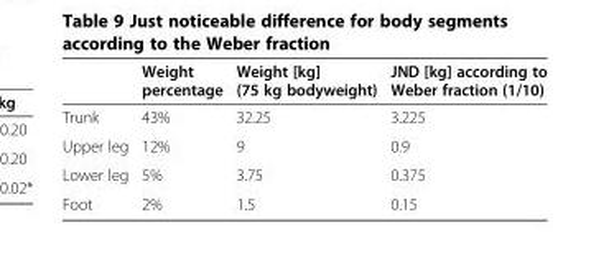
<table><thead><tr><td></td><td>Weight percentage</td><td>Weight [kg] (75 kg bodyweight)</td><td>JND [kg] according to Weber fraction (1/10)</td></tr></thead><tbody><tr><td>Trunk</td><td>43%</td><td>32.25</td><td>3.225</td></tr><tr><td>Upper leg</td><td>12%</td><td>9</td><td>0.9</td></tr><tr><td>Lower leg</td><td>5%</td><td>3.75</td><td>0.375</td></tr><tr><td>Foot</td><td>2%</td><td>1.5</td><td>0.15</td></tr></tbody></table>